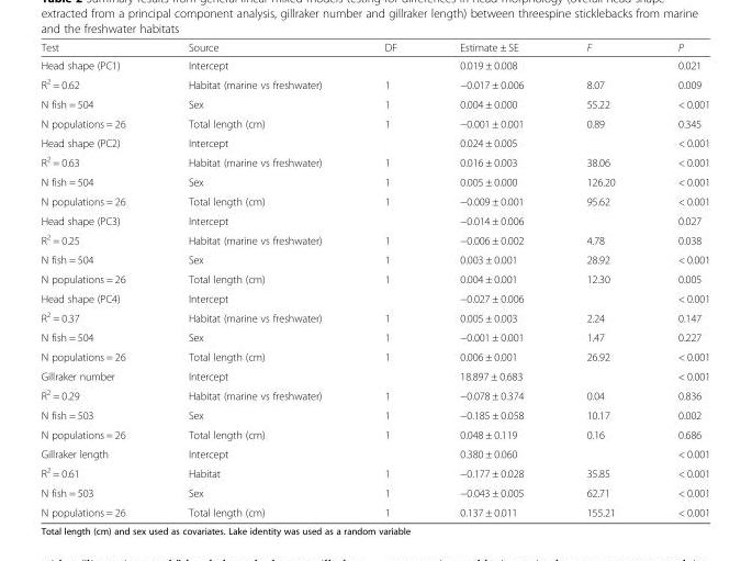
<table><thead><tr><td>Test</td><td>Source</td><td>DF</td><td>Estimate ± SE</td><td>F</td><td>P</td></tr></thead><tbody><tr><td>Head shape (PC1)</td><td>Intercept</td><td></td><td>0.019 ± 0.008</td><td></td><td>0.021</td></tr><tr><td>R<sup>2</sup> = 0.62</td><td>Habitat (marine vs freshwater)</td><td>1</td><td>−0.017 ± 0.006</td><td>8.07</td><td>0.009</td></tr><tr><td>N fish = 504</td><td>Sex</td><td>1</td><td>0.004 ± 0.000</td><td>55.22</td><td>&lt; 0.001</td></tr><tr><td>N populations = 26</td><td>Total length (cm)</td><td>1</td><td>−0.001 ± 0.001</td><td>0.89</td><td>0.345</td></tr><tr><td>Head shape (PC2)</td><td>Intercept</td><td></td><td>0.024 ± 0.005</td><td></td><td>&lt; 0.001</td></tr><tr><td>R<sup>2</sup> = 0.63</td><td>Habitat (marine vs freshwater)</td><td>1</td><td>0.016 ± 0.003</td><td>38.06</td><td>&lt; 0.001</td></tr><tr><td>N fish = 504</td><td>Sex</td><td>1</td><td>0.005 ± 0.000</td><td>126.20</td><td>&lt; 0.001</td></tr><tr><td>N populations = 26</td><td>Total length (cm)</td><td>1</td><td>−0.009 ± 0.001</td><td>95.62</td><td>&lt; 0.001</td></tr><tr><td>Head shape (PC3)</td><td>Intercept</td><td></td><td>−0.014 ± 0.006</td><td></td><td>0.027</td></tr><tr><td>R<sup>2</sup> = 0.25</td><td>Habitat (marine vs freshwater)</td><td>1</td><td>−0.006 ± 0.002</td><td>4.78</td><td>0.038</td></tr><tr><td>N fish = 504</td><td>Sex</td><td>1</td><td>0.003 ± 0.001</td><td>28.92</td><td>&lt; 0.001</td></tr><tr><td>N populations = 26</td><td>Total length (cm)</td><td>1</td><td>0.004 ± 0.001</td><td>12.30</td><td>0.005</td></tr><tr><td>Head shape (PC4)</td><td>Intercept</td><td></td><td>−0.027 ± 0.006</td><td></td><td>&lt; 0.001</td></tr><tr><td>R<sup>2</sup> = 0.37</td><td>Habitat (marine vs freshwater)</td><td>1</td><td>0.005 ± 0.003</td><td>2.24</td><td>0.147</td></tr><tr><td>N fish = 504</td><td>Sex</td><td>1</td><td>−0.001 ± 0.001</td><td>1.47</td><td>0.227</td></tr><tr><td>N populations = 26</td><td>Total length (cm)</td><td>1</td><td>0.006 ± 0.001</td><td>26.92</td><td>&lt; 0.001</td></tr><tr><td>Gillraker number</td><td>Intercept</td><td></td><td>18.897 ± 0.683</td><td></td><td>&lt; 0.001</td></tr><tr><td>R<sup>2</sup> = 0.29</td><td>Habitat (marine vs freshwater)</td><td>1</td><td>−0.078 ± 0.374</td><td>0.04</td><td>0.836</td></tr><tr><td>N fish = 503</td><td>Sex</td><td>1</td><td>−0.185 ± 0.058</td><td>10.17</td><td>0.002</td></tr><tr><td>N populations = 26</td><td>Total length (cm)</td><td>1</td><td>0.048 ± 0.119</td><td>0.16</td><td>0.686</td></tr><tr><td>Gillraker length</td><td>Intercept</td><td></td><td>0.380 ± 0.060</td><td></td><td>&lt; 0.001</td></tr><tr><td>R<sup>2</sup> = 0.61</td><td>Habitat</td><td>1</td><td>−0.177 ± 0.028</td><td>35.85</td><td>&lt; 0.001</td></tr><tr><td>N fish = 503</td><td>Sex</td><td>1</td><td>−0.043 ± 0.005</td><td>62.71</td><td>&lt; 0.001</td></tr><tr><td>N populations = 26</td><td>Total length (cm)</td><td>1</td><td>0.137 ± 0.011</td><td>155.21</td><td>&lt; 0.001</td></tr></tbody></table>